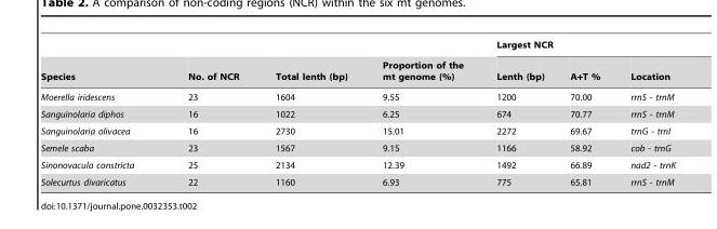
<table><thead><tr><td rowspan="2">Species</td><td rowspan="2">No. of NCR</td><td rowspan="2">Total lenth (bp)</td><td rowspan="2">Proportion of the mt genome (%)</td><td colspan="3">Largest NCR</td></tr><tr><td>Lenth (bp)</td><td>A+T %</td><td>Location</td></tr></thead><tbody><tr><td>Moerella iridescens</td><td>23</td><td>1604</td><td>9.55</td><td>1200</td><td>70.00</td><td>rrnS - trnM</td></tr><tr><td>Sanguinolaria diphos</td><td>16</td><td>1022</td><td>6.25</td><td>674</td><td>70.77</td><td>rrnS - trnM</td></tr><tr><td>Sanguinolaria olivacea</td><td>16</td><td>2730</td><td>15.01</td><td>2272</td><td>69.67</td><td>trnG - trnI</td></tr><tr><td>Semele scaba</td><td>23</td><td>1567</td><td>9.15</td><td>1166</td><td>58.92</td><td>cob - trnG</td></tr><tr><td>Sinonovacula constricta</td><td>25</td><td>2134</td><td>12.39</td><td>1492</td><td>66.89</td><td>nad2 - trnK</td></tr><tr><td>Solecurtus divaricatus</td><td>22</td><td>1160</td><td>6.93</td><td>775</td><td>65.81</td><td>rrnS - trnM</td></tr></tbody></table>